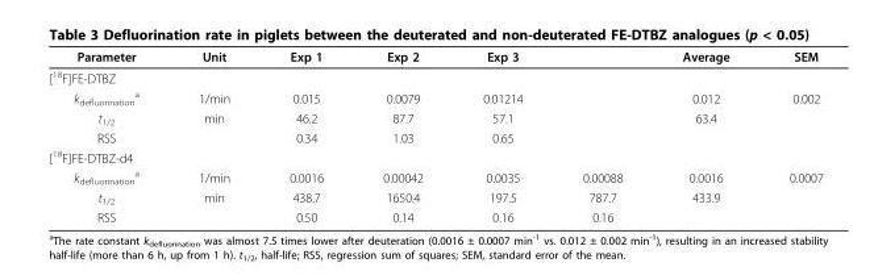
<table><thead><tr><td>Parameter</td><td>Unit</td><td>Exp 1</td><td>Exp 2</td><td>Exp 3</td><td></td><td>Average</td><td>SEM</td></tr></thead><tbody><tr><td colspan="8">[<sup>18</sup>F]FE-DTBZ</td></tr><tr><td>k<sub>defluorination</sub> <sup>a</sup></td><td>1/min</td><td>0.015</td><td>0.0079</td><td>0.01214</td><td></td><td>0.012</td><td>0.002</td></tr><tr><td>t<sub>1/2</sub></td><td>min</td><td>46.2</td><td>87.7</td><td>57.1</td><td></td><td>63.4</td><td></td></tr><tr><td>RSS</td><td></td><td>0.34</td><td>1.03</td><td>0.65</td><td></td><td></td><td></td></tr><tr><td colspan="8">[<sup>18</sup>F]FE-DTBZ-d4</td></tr><tr><td>k<sub>defluorination</sub> <sup>a</sup></td><td>1/min</td><td>0.0016</td><td>0.00042</td><td>0.0035</td><td>0.00088</td><td>0.0016</td><td>0.0007</td></tr><tr><td>t<sub>1/2</sub></td><td>min</td><td>438.7</td><td>1650.4</td><td>197.5</td><td>787.7</td><td>433.9</td><td></td></tr><tr><td>RSS</td><td></td><td>0.50</td><td>0.14</td><td>0.16</td><td>0.16</td><td></td><td></td></tr></tbody></table>